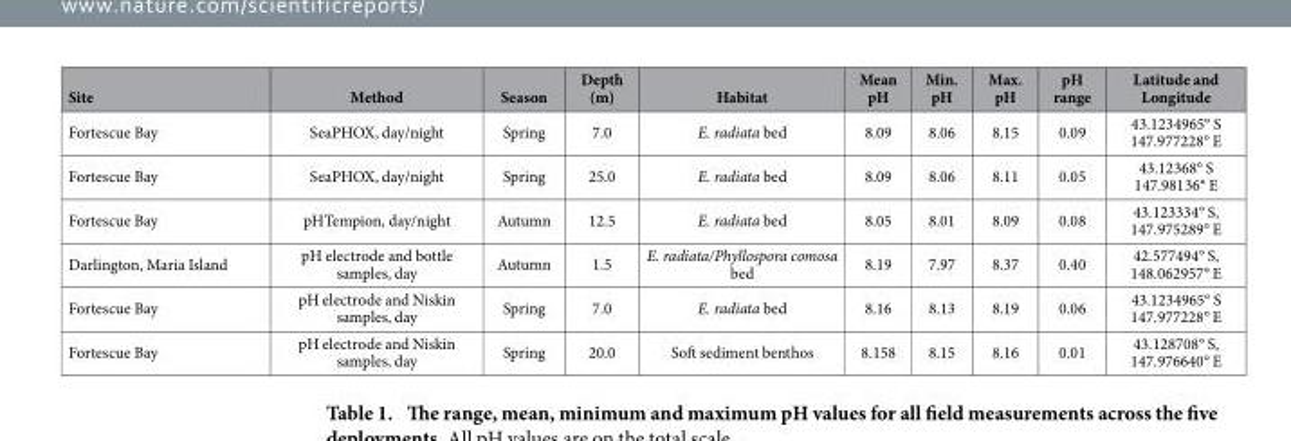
<table><thead><tr><td>Site</td><td>Method</td><td>Season</td><td>Depth (m)</td><td>Habitat</td><td>Mean pH</td><td>Min. pH</td><td>Max. pH</td><td>pH range</td><td>Latitude and Longitude</td></tr></thead><tbody><tr><td>Fortescue Bay</td><td>SeaPHOX, day/night</td><td>Spring</td><td>7.0</td><td>E. radiata bed</td><td>8.09</td><td>8.06</td><td>8.15</td><td>0.09</td><td>43.1234965° S 147.977228° E</td></tr><tr><td>Fortescue Bay</td><td>SeaPHOX, day/night</td><td>Spring</td><td>25.0</td><td>E. radiata bed</td><td>8.09</td><td>8.06</td><td>8.11</td><td>0.05</td><td>43.12368° S 147.98136° E</td></tr><tr><td>Fortescue Bay</td><td>pHTempion, day/night</td><td>Autumn</td><td>12.5</td><td>E. radiata bed</td><td>8.05</td><td>8.01</td><td>8.09</td><td>0.08</td><td>43.123334° S, 147.975289° E</td></tr><tr><td>Darlington, Maria Island</td><td>pH electrode and bottle samples, day</td><td>Autumn</td><td>1.5</td><td>E. radiata/Phyllospora comosa bed</td><td>8.19</td><td>7.97</td><td>8.37</td><td>0.40</td><td>42.577494° S, 148.062957° E</td></tr><tr><td>Fortescue Bay</td><td>pH electrode and Niskin samples, day</td><td>Spring</td><td>7.0</td><td>E. radiata bed</td><td>8.16</td><td>8.13</td><td>8.19</td><td>0.06</td><td>43.1234965° S 147.977228° E</td></tr><tr><td>Fortescue Bay</td><td>pH electrode and Niskin samples, day</td><td>Spring</td><td>20.0</td><td>Soft sediment benthos</td><td>8.158</td><td>8.15</td><td>8.16</td><td>0.01</td><td>43.128708° S, 147.976640° E</td></tr></tbody></table>